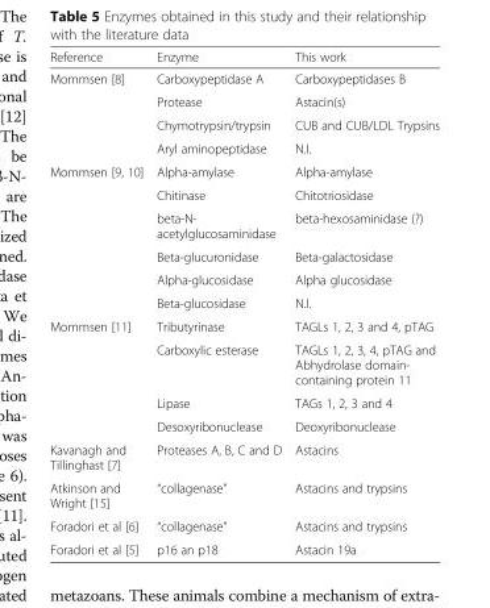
<table><thead><tr><td>Reference</td><td>Enzyme</td><td>This work</td></tr></thead><tbody><tr><td rowspan="4">Mommsen [8]</td><td>Carboxypeptidase A</td><td>Carboxypeptidases B</td></tr><tr><td>Protease</td><td>Astacin(s)</td></tr><tr><td>Chymotrypsin/trypsin</td><td>CUB and CUB/LDL Trypsins</td></tr><tr><td>Aryl aminopeptidase</td><td>N.I.</td></tr><tr><td rowspan="6">Mommsen [9, 10]</td><td>Alpha-amylase</td><td>Alpha-amylase</td></tr><tr><td>Chitinase</td><td>Chitotriosidase</td></tr><tr><td>beta-N- acetylglucosaminidase</td><td>beta-hexosaminidase (?)</td></tr><tr><td>Beta-glucuronidase</td><td>Beta-galactosidase</td></tr><tr><td>Alpha-glucosidase</td><td>Alpha glucosidase</td></tr><tr><td>Beta-glucosidase</td><td>N.I.</td></tr><tr><td rowspan="4">Mommsen [11]</td><td>Tributyrinase</td><td>TAGLs 1, 2, 3 and 4, pTAG</td></tr><tr><td>Carboxylic esterase</td><td>TAGLs 1, 2, 3, 4, pTAG and Abhydrolase domain- containing protein 11</td></tr><tr><td>Lipase</td><td>TAGs 1, 2, 3 and 4</td></tr><tr><td>Desoxyribonuclease</td><td>Deoxyribonuclease</td></tr><tr><td>Kavanagh and Tillinghast [7]</td><td>Proteases A, B, C and D</td><td>Astacins</td></tr><tr><td>Atkinson and Wright [15]</td><td>“collagenase”</td><td>Astacins and trypsins</td></tr><tr><td>Foradori et al [6]</td><td>“collagenase”</td><td>Astacins and trypsins</td></tr><tr><td>Foradori et al [5]</td><td>p16 an p18</td><td>Astacin 19a</td></tr></tbody></table>